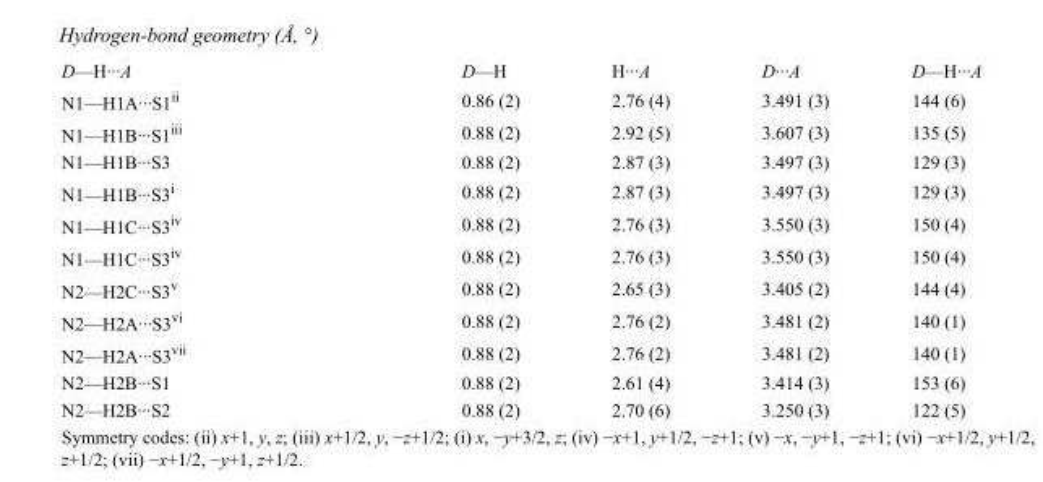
<table><tbody><tr><td>D—H···A</td><td>D—H</td><td>H···A</td><td>D···A</td><td>D—H···A</td></tr><tr><td>N1—H1A···S1<sup>ii</sup></td><td>0.86 (2)</td><td>2.76 (4)</td><td>3.491 (3)</td><td>144 (6)</td></tr><tr><td>N1—H1B···S1<sup>iii</sup></td><td>0.88 (2)</td><td>2.92 (5)</td><td>3.607 (3)</td><td>135 (5)</td></tr><tr><td>N1—H1B···S3</td><td>0.88 (2)</td><td>2.87 (3)</td><td>3.497 (3)</td><td>129 (3)</td></tr><tr><td>N1—H1B···S3<sup>i</sup></td><td>0.88 (2)</td><td>2.87 (3)</td><td>3.497 (3)</td><td>129 (3)</td></tr><tr><td>N1—H1C···S3<sup>iv</sup></td><td>0.88 (2)</td><td>2.76 (3)</td><td>3.550 (3)</td><td>150 (4)</td></tr><tr><td>N1—H1C···S3<sup>iv</sup></td><td>0.88 (2)</td><td>2.76 (3)</td><td>3.550 (3)</td><td>150 (4)</td></tr><tr><td>N2—H2C···S3<sup>v</sup></td><td>0.88 (2)</td><td>2.65 (3)</td><td>3.405 (2)</td><td>144 (4)</td></tr><tr><td>N2—H2A···S3<sup>vi</sup></td><td>0.88 (2)</td><td>2.76 (2)</td><td>3.481 (2)</td><td>140 (1)</td></tr><tr><td>N2—H2A···S3<sup>vii</sup></td><td>0.88 (2)</td><td>2.76 (2)</td><td>3.481 (2)</td><td>140 (1)</td></tr><tr><td>N2—H2B···S1</td><td>0.88 (2)</td><td>2.61 (4)</td><td>3.414 (3)</td><td>153 (6)</td></tr><tr><td>N2—H2B···S2</td><td>0.88 (2)</td><td>2.70 (6)</td><td>3.250 (3)</td><td>122 (5)</td></tr></tbody></table>